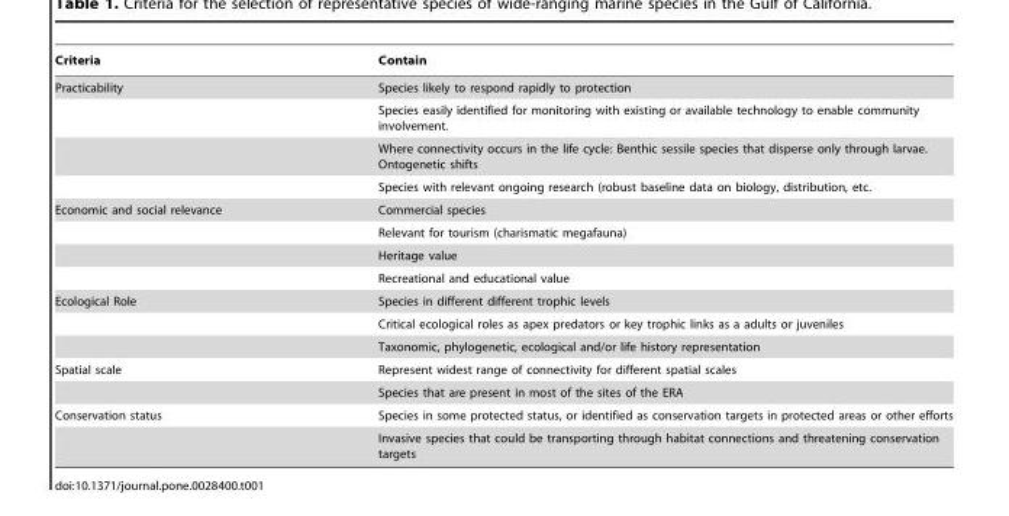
<table><thead><tr><td>Criteria</td><td>Contain</td></tr></thead><tbody><tr><td rowspan="4">Practicability</td><td>Species likely to respond rapidly to protection</td></tr><tr><td>Species easily identified for monitoring with existing or available technology to enable community involvement.</td></tr><tr><td>Where connectivity occurs in the life cycle: Benthic sessile species that disperse only through larvae. Ontogenetic shifts</td></tr><tr><td>Species with relevant ongoing research (robust baseline data on biology, distribution, etc.</td></tr><tr><td rowspan="4">Economic and social relevance</td><td>Commercial species</td></tr><tr><td>Relevant for tourism (charismatic megafauna)</td></tr><tr><td>Heritage value</td></tr><tr><td>Recreational and educational value</td></tr><tr><td rowspan="3">Ecological Role</td><td>Species in different different trophic levels</td></tr><tr><td>Critical ecological roles as apex predators or key trophic links as a adults or juveniles</td></tr><tr><td>Taxonomic, phylogenetic, ecological and/or life history representation</td></tr><tr><td rowspan="2">Spatial scale</td><td>Represent widest range of connectivity for different spatial scales</td></tr><tr><td>Species that are present in most of the sites of the ERA</td></tr><tr><td rowspan="2">Conservation status</td><td>Species in some protected status, or identified as conservation targets in protected areas or other efforts</td></tr><tr><td>Invasive species that could be transporting through habitat connections and threatening conservation targets</td></tr></tbody></table>